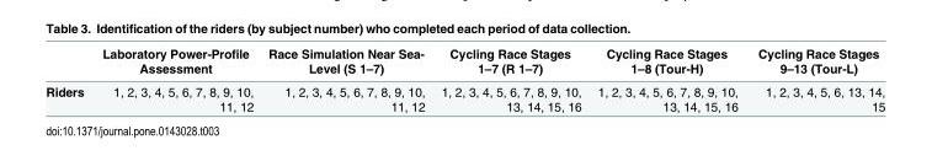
<table><thead><tr><td></td><td>Laboratory Power-Profile Assessment</td><td>Race Simulation Near Sea- Level (S 1–7)</td><td>Cycling Race Stages 1–7 (R 1–7)</td><td>Cycling Race Stages 1–8 (Tour-H)</td><td>Cycling Race Stages 9–13 (Tour-L)</td></tr></thead><tbody><tr><td>Riders</td><td>1, 2, 3, 4, 5, 6, 7, 8, 9, 10, 11, 12</td><td>1, 2, 3, 4, 5, 6, 7, 8, 9, 10, 11, 12</td><td>1, 2, 3, 4, 5, 6, 7, 8, 9, 10, 13, 14, 15, 16</td><td>1, 2, 3, 4, 5, 6, 7, 8, 9, 10, 13, 14, 15, 16</td><td>1, 2, 3, 4, 5, 6, 13, 14, 15</td></tr></tbody></table>